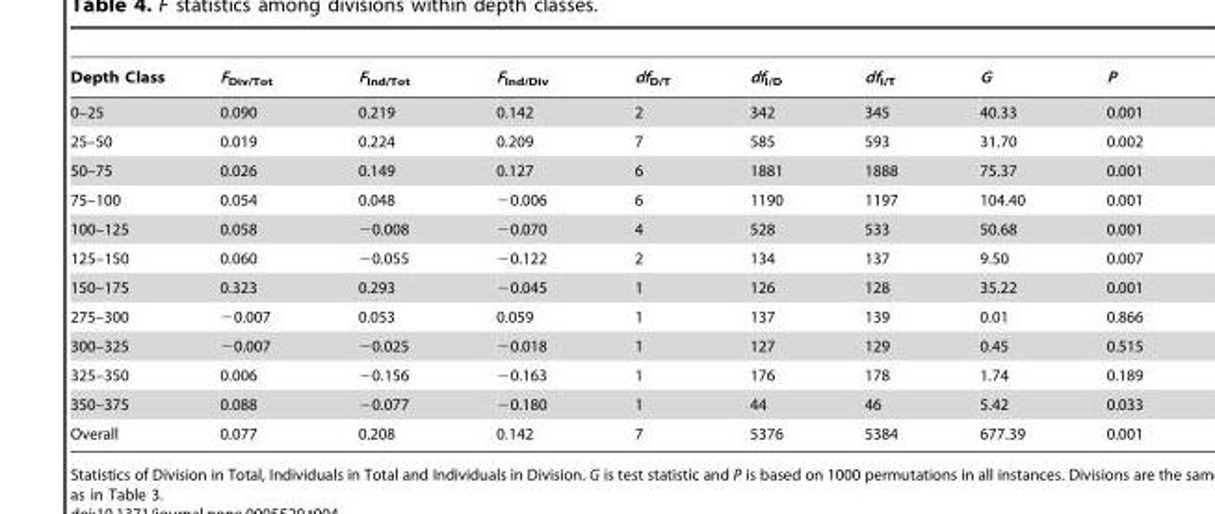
<table><thead><tr><td>Depth Class</td><td>F<sub>Div/Tot</sub></td><td>F<sub>Ind/Tot</sub></td><td>F<sub>Ind/Div</sub></td><td>df<sub>D/T</sub></td><td>df<sub>I/D</sub></td><td>df<sub>I/T</sub></td><td>G</td><td>P</td></tr></thead><tbody><tr><td>0–25</td><td>0.090</td><td>0.219</td><td>0.142</td><td>2</td><td>342</td><td>345</td><td>40.33</td><td>0.001</td></tr><tr><td>25–50</td><td>0.019</td><td>0.224</td><td>0.209</td><td>7</td><td>585</td><td>593</td><td>31.70</td><td>0.002</td></tr><tr><td>50–75</td><td>0.026</td><td>0.149</td><td>0.127</td><td>6</td><td>1881</td><td>1888</td><td>75.37</td><td>0.001</td></tr><tr><td>75–100</td><td>0.054</td><td>0.048</td><td>−0.006</td><td>6</td><td>1190</td><td>1197</td><td>104.40</td><td>0.001</td></tr><tr><td>100–125</td><td>0.058</td><td>−0.008</td><td>−0.070</td><td>4</td><td>528</td><td>533</td><td>50.68</td><td>0.001</td></tr><tr><td>125–150</td><td>0.060</td><td>−0.055</td><td>−0.122</td><td>2</td><td>134</td><td>137</td><td>9.50</td><td>0.007</td></tr><tr><td>150–175</td><td>0.323</td><td>0.293</td><td>−0.045</td><td>1</td><td>126</td><td>128</td><td>35.22</td><td>0.001</td></tr><tr><td>275–300</td><td>−0.007</td><td>0.053</td><td>0.059</td><td>1</td><td>137</td><td>139</td><td>0.01</td><td>0.866</td></tr><tr><td>300–325</td><td>−0.007</td><td>−0.025</td><td>−0.018</td><td>1</td><td>127</td><td>129</td><td>0.45</td><td>0.515</td></tr><tr><td>325–350</td><td>0.006</td><td>−0.156</td><td>−0.163</td><td>1</td><td>176</td><td>178</td><td>1.74</td><td>0.189</td></tr><tr><td>350–375</td><td>0.088</td><td>−0.077</td><td>−0.180</td><td>1</td><td>44</td><td>46</td><td>5.42</td><td>0.033</td></tr><tr><td>Overall</td><td>0.077</td><td>0.208</td><td>0.142</td><td>7</td><td>5376</td><td>5384</td><td>677.39</td><td>0.001</td></tr></tbody></table>